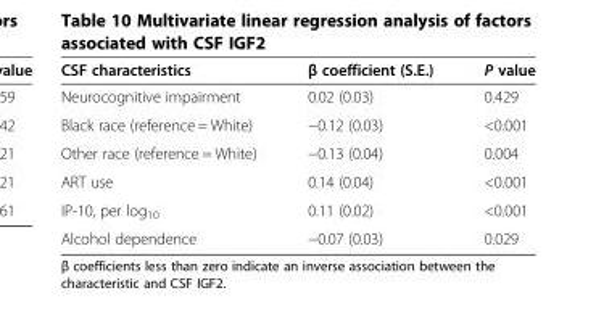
<table><thead><tr><td>CSF characteristics</td><td>β coefficient (S.E.)</td><td>P value</td></tr></thead><tbody><tr><td>Neurocognitive impairment</td><td>0.02 (0.03)</td><td>0.429</td></tr><tr><td>Black race (reference = White)</td><td>−0.12 (0.03)</td><td>&lt;0.001</td></tr><tr><td>Other race (reference = White)</td><td>−0.13 (0.04)</td><td>0.004</td></tr><tr><td>ART use</td><td>0.14 (0.04)</td><td>&lt;0.001</td></tr><tr><td>IP-10, per log<sub>10</sub></td><td>0.11 (0.02)</td><td>&lt;0.001</td></tr><tr><td>Alcohol dependence</td><td>−0.07 (0.03)</td><td>0.029</td></tr></tbody></table>